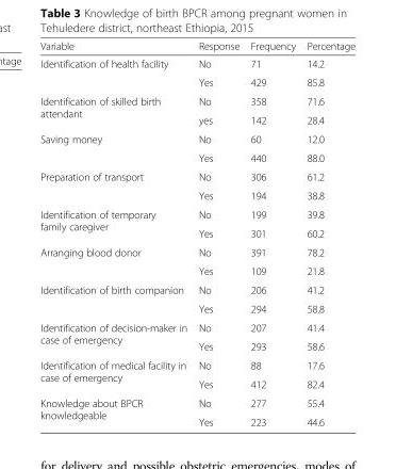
<table><thead><tr><td>Variable</td><td>Response</td><td>Frequency</td><td>Percentage</td></tr></thead><tbody><tr><td rowspan="2">Identification of health facility</td><td>No</td><td>71</td><td>14.2</td></tr><tr><td>Yes</td><td>429</td><td>85.8</td></tr><tr><td rowspan="2">Identification of skilled birth attendant</td><td>No</td><td>358</td><td>71.6</td></tr><tr><td>yes</td><td>142</td><td>28.4</td></tr><tr><td rowspan="2">Saving money</td><td>No</td><td>60</td><td>12.0</td></tr><tr><td>Yes</td><td>440</td><td>88.0</td></tr><tr><td rowspan="2">Preparation of transport</td><td>No</td><td>306</td><td>61.2</td></tr><tr><td>Yes</td><td>194</td><td>38.8</td></tr><tr><td rowspan="2">Identification of temporary family caregiver</td><td>No</td><td>199</td><td>39.8</td></tr><tr><td>Yes</td><td>301</td><td>60.2</td></tr><tr><td rowspan="2">Arranging blood donor</td><td>No</td><td>391</td><td>78.2</td></tr><tr><td>Yes</td><td>109</td><td>21.8</td></tr><tr><td rowspan="2">Identification of birth companion</td><td>No</td><td>206</td><td>41.2</td></tr><tr><td>Yes</td><td>294</td><td>58.8</td></tr><tr><td rowspan="2">Identification of decision-maker in case of emergency</td><td>No</td><td>207</td><td>41.4</td></tr><tr><td>Yes</td><td>293</td><td>58.6</td></tr><tr><td rowspan="2">Identification of medical facility in case of emergency</td><td>No</td><td>88</td><td>17.6</td></tr><tr><td>Yes</td><td>412</td><td>82.4</td></tr><tr><td rowspan="2">Knowledge about BPCR knowledgeable</td><td>No</td><td>277</td><td>55.4</td></tr><tr><td>Yes</td><td>223</td><td>44.6</td></tr></tbody></table>